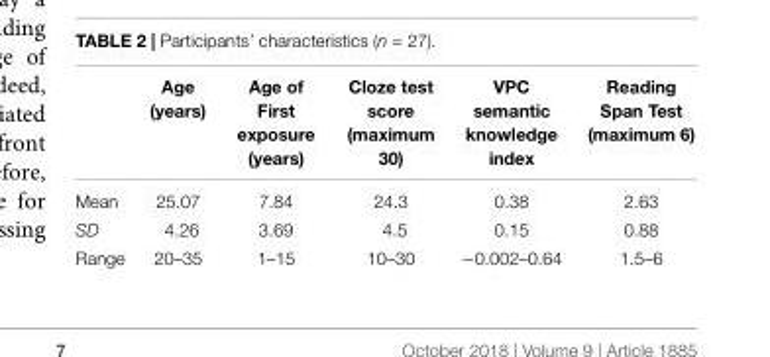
<table><thead><tr><td></td><td>Age (years)</td><td>Age of First exposure (years)</td><td>Cloze test score (maximum 30)</td><td>VPC semantic knowledge index</td><td>Reading Span Test (maximum 6)</td></tr></thead><tbody><tr><td>Mean</td><td>25.07</td><td>7.84</td><td>24.3</td><td>0.38</td><td>2.63</td></tr><tr><td>SD</td><td>4.26</td><td>3.69</td><td>4.5</td><td>0.15</td><td>0.88</td></tr><tr><td>Range</td><td>20–35</td><td>1–15</td><td>10–30</td><td>−0.002–0.64</td><td>1.5–6</td></tr></tbody></table>